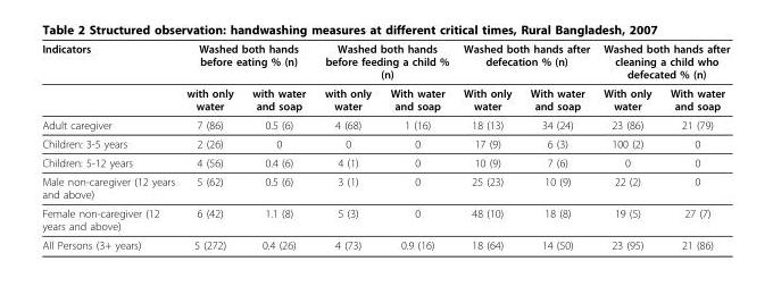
<table><thead><tr><td rowspan="2">Indicators</td><td colspan="2">Washed both hands before eating % (n)</td><td colspan="2">Washed both hands before feeding a child % (n)</td><td colspan="2">Washed both hands after defecation % (n)</td><td colspan="2">Washed both hands after cleaning a child who defecated % (n)</td></tr><tr><td>with only water</td><td>with water and soap</td><td>with only water</td><td>With water and soap</td><td>With only water</td><td>With water and soap</td><td>With only water</td><td>With water and soap</td></tr></thead><tbody><tr><td>Adult caregiver</td><td>7 (86)</td><td>0.5 (6)</td><td>4 (68)</td><td>1 (16)</td><td>18 (13)</td><td>34 (24)</td><td>23 (86)</td><td>21 (79)</td></tr><tr><td>Children: 3-5 years</td><td>2 (26)</td><td>0</td><td>0</td><td>0</td><td>17 (9)</td><td>6 (3)</td><td>100 (2)</td><td>0</td></tr><tr><td>Children: 5-12 years</td><td>4 (56)</td><td>0.4 (6)</td><td>4 (1)</td><td>0</td><td>10 (9)</td><td>7 (6)</td><td>0</td><td>0</td></tr><tr><td>Male non-caregiver (12 years and above)</td><td>5 (62)</td><td>0.5 (6)</td><td>3 (1)</td><td>0</td><td>25 (23)</td><td>10 (9)</td><td>22 (2)</td><td>0</td></tr><tr><td>Female non-caregiver (12 years and above)</td><td>6 (42)</td><td>1.1 (8)</td><td>5 (3)</td><td>0</td><td>48 (10)</td><td>18 (8)</td><td>19 (5)</td><td>27 (7)</td></tr><tr><td>All Persons (3+ years)</td><td>5 (272)</td><td>0.4 (26)</td><td>4 (73)</td><td>0.9 (16)</td><td>18 (64)</td><td>14 (50)</td><td>23 (95)</td><td>21 (86)</td></tr></tbody></table>